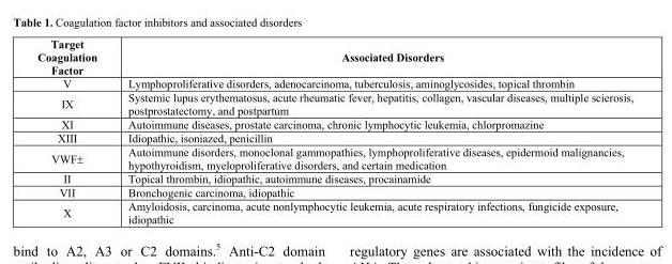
<table><thead><tr><td>Target Coagulation Factor</td><td>Associated Disorders</td></tr></thead><tbody><tr><td>V</td><td>Lymphoproliferative disorders, adenocarcinoma, tuberculosis, aminoglycosides, topical thrombin</td></tr><tr><td>IX</td><td>Systemic lupus erythematosus, acute rheumatic fever, hepatitis, collagen, vascular diseases, multiple scierosis, postprostatectomy, and postpartum</td></tr><tr><td>XI</td><td>Autoimmune diseases, prostate carcinoma, chronic lymphocytic leukemia, chlorpromazine</td></tr><tr><td>XIII</td><td>Idiopathic, isoniazed, penicillin</td></tr><tr><td>VWF±</td><td>Autoimmune disorders, monoclonal gammopathies, lymphoproliferative diseases, epidermoid malignancies, hypothyroidism, myeloproliferative disorders, and certain medication</td></tr><tr><td>II</td><td>Topical thrombin, idiopathic, autoimmune diseases, procainamide</td></tr><tr><td>VII</td><td>Bronchogenic carcinoma, idiopathic</td></tr><tr><td>X</td><td>Amyloidosis, carcinoma, acute nonlymphocytic leukemia, acute respiratory infections, fungicide exposure, idiopathic</td></tr></tbody></table>